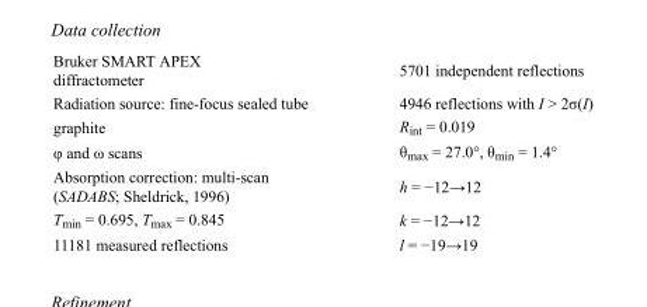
<table><tbody><tr><td>Bruker SMART APEX diffractometer</td><td>5701 independent reflections</td></tr><tr><td>Radiation source: fine-focus sealed tube</td><td>4946 reflections with I &gt; 2σ(I)</td></tr><tr><td>graphite</td><td>R<sub>int</sub> = 0.019</td></tr><tr><td>φ and ω scans</td><td>θ<sub>max</sub> = 27.0°, θ<sub>min</sub> = 1.4°</td></tr><tr><td>Absorption correction: multi-scan (SADABS; Sheldrick, 1996)</td><td>h = −12→12</td></tr><tr><td>T<sub>min</sub> = 0.695, T<sub>max</sub> = 0.845</td><td>k = −12→12</td></tr><tr><td>11181 measured reflections</td><td>l = −19→19</td></tr></tbody></table>